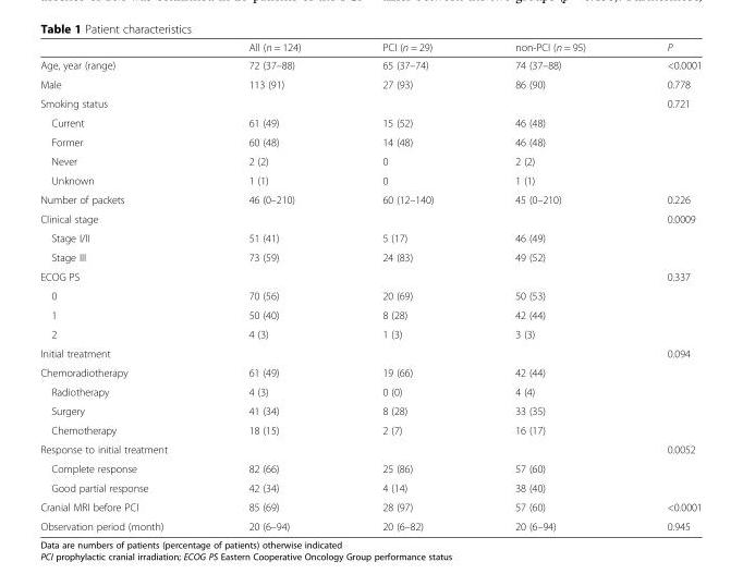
<table><thead><tr><td></td><td>All (n = 124)</td><td>PCI (n = 29)</td><td>non-PCI (n = 95)</td><td>P</td></tr></thead><tbody><tr><td>Age, year (range)</td><td>72 (37–88)</td><td>65 (37–74)</td><td>74 (37–88)</td><td>&lt;0.0001</td></tr><tr><td>Male</td><td>113 (91)</td><td>27 (93)</td><td>86 (90)</td><td>0.778</td></tr><tr><td>Smoking status</td><td></td><td></td><td></td><td>0.721</td></tr><tr><td>Current</td><td>61 (49)</td><td>15 (52)</td><td>46 (48)</td><td></td></tr><tr><td>Former</td><td>60 (48)</td><td>14 (48)</td><td>46 (48)</td><td></td></tr><tr><td>Never</td><td>2 (2)</td><td>0</td><td>2 (2)</td><td></td></tr><tr><td>Unknown</td><td>1 (1)</td><td>0</td><td>1 (1)</td><td></td></tr><tr><td>Number of packets</td><td>46 (0–210)</td><td>60 (12–140)</td><td>45 (0–210)</td><td>0.226</td></tr><tr><td>Clinical stage</td><td></td><td></td><td></td><td>0.0009</td></tr><tr><td>Stage I/II</td><td>51 (41)</td><td>5 (17)</td><td>46 (49)</td><td></td></tr><tr><td>Stage III</td><td>73 (59)</td><td>24 (83)</td><td>49 (52)</td><td></td></tr><tr><td>ECOG PS</td><td></td><td></td><td></td><td>0.337</td></tr><tr><td>0</td><td>70 (56)</td><td>20 (69)</td><td>50 (53)</td><td></td></tr><tr><td>1</td><td>50 (40)</td><td>8 (28)</td><td>42 (44)</td><td></td></tr><tr><td>2</td><td>4 (3)</td><td>1 (3)</td><td>3 (3)</td><td></td></tr><tr><td>Initial treatment</td><td></td><td></td><td></td><td>0.094</td></tr><tr><td>Chemoradiotherapy</td><td>61 (49)</td><td>19 (66)</td><td>42 (44)</td><td></td></tr><tr><td>Radiotherapy</td><td>4 (3)</td><td>0 (0)</td><td>4 (4)</td><td></td></tr><tr><td>Surgery</td><td>41 (34)</td><td>8 (28)</td><td>33 (35)</td><td></td></tr><tr><td>Chemotherapy</td><td>18 (15)</td><td>2 (7)</td><td>16 (17)</td><td></td></tr><tr><td>Response to initial treatment</td><td></td><td></td><td></td><td>0.0052</td></tr><tr><td>Complete response</td><td>82 (66)</td><td>25 (86)</td><td>57 (60)</td><td></td></tr><tr><td>Good partial response</td><td>42 (34)</td><td>4 (14)</td><td>38 (40)</td><td></td></tr><tr><td>Cranial MRI before PCI</td><td>85 (69)</td><td>28 (97)</td><td>57 (60)</td><td>&lt;0.0001</td></tr><tr><td>Observation period (month)</td><td>20 (6–94)</td><td>20 (6–82)</td><td>20 (6–94)</td><td>0.945</td></tr></tbody></table>